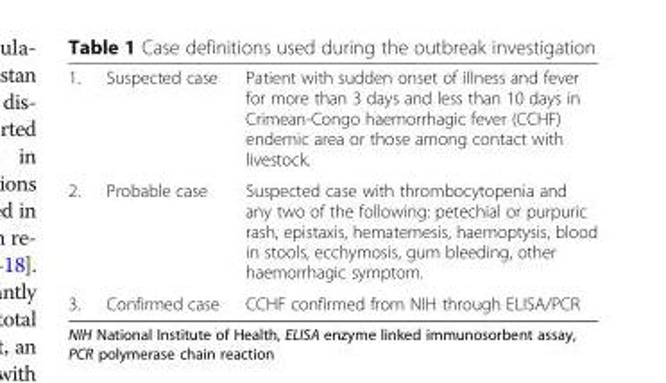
<table><tbody><tr><td>1.</td><td>Suspected case</td><td>Patient with sudden onset of illness and fever for more than 3 days and less than 10 days in Crimean-Congo haemorrhagic fever (CCHF) endemic area or those among contact with livestock.</td></tr><tr><td>2.</td><td>Probable case</td><td>Suspected case with thrombocytopenia and any two of the following: petechial or purpuric rash, epistaxis, hematemesis, haemoptysis, blood in stools, ecchymosis, gum bleeding, other haemorrhagic symptom.</td></tr><tr><td>3.</td><td>Confirmed case</td><td>CCHF confirmed from NIH through ELISA/PCR</td></tr></tbody></table>